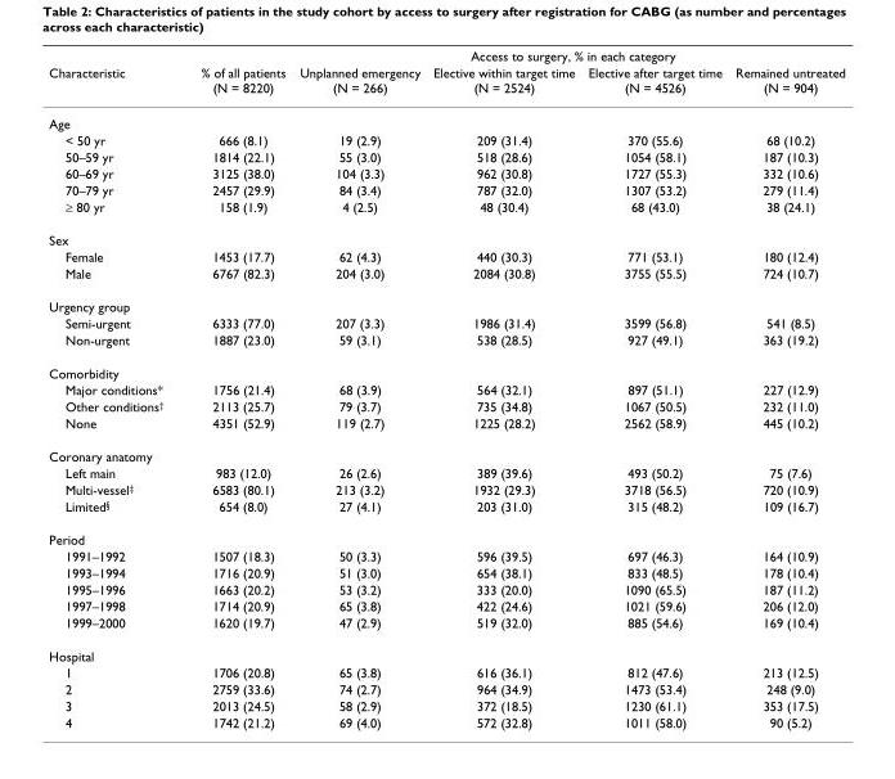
<table><thead><tr><td rowspan="2">Characteristic</td><td rowspan="2">% of all patients (N = 8220)</td><td colspan="4">Access to surgery, % in each category</td></tr><tr><td>Unplanned emergency (N = 266)</td><td>Elective within target time (N = 2524)</td><td>Elective after target time (N = 4526)</td><td>Remained untreated (N = 904)</td></tr></thead><tbody><tr><td colspan="6">Age</td></tr><tr><td>&lt; 50 yr</td><td>666 (8.1)</td><td>19 (2.9)</td><td>209 (31.4)</td><td>370 (55.6)</td><td>68 (10.2)</td></tr><tr><td>50–59 yr</td><td>1814 (22.1)</td><td>55 (3.0)</td><td>518 (28.6)</td><td>1054 (58.1)</td><td>187 (10.3)</td></tr><tr><td>60–69 yr</td><td>3125 (38.0)</td><td>104 (3.3)</td><td>962 (30.8)</td><td>1727 (55.3)</td><td>332 (10.6)</td></tr><tr><td>70–79 yr</td><td>2457 (29.9)</td><td>84 (3.4)</td><td>787 (32.0)</td><td>1307 (53.2)</td><td>279 (11.4)</td></tr><tr><td>≥ 80 yr</td><td>158 (1.9)</td><td>4 (2.5)</td><td>48 (30.4)</td><td>68 (43.0)</td><td>38 (24.1)</td></tr><tr><td colspan="6">Sex</td></tr><tr><td>Female</td><td>1453 (17.7)</td><td>62 (4.3)</td><td>440 (30.3)</td><td>771 (53.1)</td><td>180 (12.4)</td></tr><tr><td>Male</td><td>6767 (82.3)</td><td>204 (3.0)</td><td>2084 (30.8)</td><td>3755 (55.5)</td><td>724 (10.7)</td></tr><tr><td colspan="6">Urgency group</td></tr><tr><td>Semi-urgent</td><td>6333 (77.0)</td><td>207 (3.3)</td><td>1986 (31.4)</td><td>3599 (56.8)</td><td>541 (8.5)</td></tr><tr><td>Non-urgent</td><td>1887 (23.0)</td><td>59 (3.1)</td><td>538 (28.5)</td><td>927 (49.1)</td><td>363 (19.2)</td></tr><tr><td colspan="6">Comorbidity</td></tr><tr><td>Major conditions*</td><td>1756 (21.4)</td><td>68 (3.9)</td><td>564 (32.1)</td><td>897 (51.1)</td><td>227 (12.9)</td></tr><tr><td>Other conditions<sup>†</sup></td><td>2113 (25.7)</td><td>79 (3.7)</td><td>735 (34.8)</td><td>1067 (50.5)</td><td>232 (11.0)</td></tr><tr><td>None</td><td>4351 (52.9)</td><td>119 (2.7)</td><td>1225 (28.2)</td><td>2562 (58.9)</td><td>445 (10.2)</td></tr><tr><td colspan="6">Coronary anatomy</td></tr><tr><td>Left main</td><td>983 (12.0)</td><td>26 (2.6)</td><td>389 (39.6)</td><td>493 (50.2)</td><td>75 (7.6)</td></tr><tr><td>Multi-vessel<sup>‡</sup></td><td>6583 (80.1)</td><td>213 (3.2)</td><td>1932 (29.3)</td><td>3718 (56.5)</td><td>720 (10.9)</td></tr><tr><td>Limited<sup>§</sup></td><td>654 (8.0)</td><td>27 (4.1)</td><td>203 (31.0)</td><td>315 (48.2)</td><td>109 (16.7)</td></tr><tr><td colspan="6">Period</td></tr><tr><td>1991–1992</td><td>1507 (18.3)</td><td>50 (3.3)</td><td>596 (39.5)</td><td>697 (46.3)</td><td>164 (10.9)</td></tr><tr><td>1993–1994</td><td>1716 (20.9)</td><td>51 (3.0)</td><td>654 (38.1)</td><td>833 (48.5)</td><td>178 (10.4)</td></tr><tr><td>1995–1996</td><td>1663 (20.2)</td><td>53 (3.2)</td><td>333 (20.0)</td><td>1090 (65.5)</td><td>187 (11.2)</td></tr><tr><td>1997–1998</td><td>1714 (20.9)</td><td>65 (3.8)</td><td>422 (24.6)</td><td>1021 (59.6)</td><td>206 (12.0)</td></tr><tr><td>1999–2000</td><td>1620 (19.7)</td><td>47 (2.9)</td><td>519 (32.0)</td><td>885 (54.6)</td><td>169 (10.4)</td></tr><tr><td colspan="6">Hospital</td></tr><tr><td>1</td><td>1706 (20.8)</td><td>65 (3.8)</td><td>616 (36.1)</td><td>812 (47.6)</td><td>213 (12.5)</td></tr><tr><td>2</td><td>2759 (33.6)</td><td>74 (2.7)</td><td>964 (34.9)</td><td>1473 (53.4)</td><td>248 (9.0)</td></tr><tr><td>3</td><td>2013 (24.5)</td><td>58 (2.9)</td><td>372 (18.5)</td><td>1230 (61.1)</td><td>353 (17.5)</td></tr><tr><td>4</td><td>1742 (21.2)</td><td>69 (4.0)</td><td>572 (32.8)</td><td>1011 (58.0)</td><td>90 (5.2)</td></tr></tbody></table>